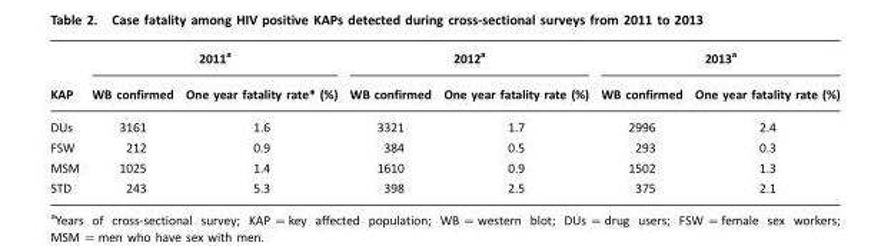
<table><thead><tr><td rowspan="2">KAP</td><td colspan="2">2011<sup>a</sup></td><td colspan="2">2012<sup>a</sup></td><td colspan="2">2013<sup>a</sup></td></tr><tr><td>WB confirmed</td><td>One year fatality rate* (%)</td><td>WB confirmed</td><td>One year fatality rate (%)</td><td>WB confirmed</td><td>One year fatality rate (%)</td></tr></thead><tbody><tr><td>DUs</td><td>3161</td><td>1.6</td><td>3321</td><td>1.7</td><td>2996</td><td>2.4</td></tr><tr><td>FSW</td><td>212</td><td>0.9</td><td>384</td><td>0.5</td><td>293</td><td>0.3</td></tr><tr><td>MSM</td><td>1025</td><td>1.4</td><td>1610</td><td>0.9</td><td>1502</td><td>1.3</td></tr><tr><td>STD</td><td>243</td><td>5.3</td><td>398</td><td>2.5</td><td>375</td><td>2.1</td></tr></tbody></table>